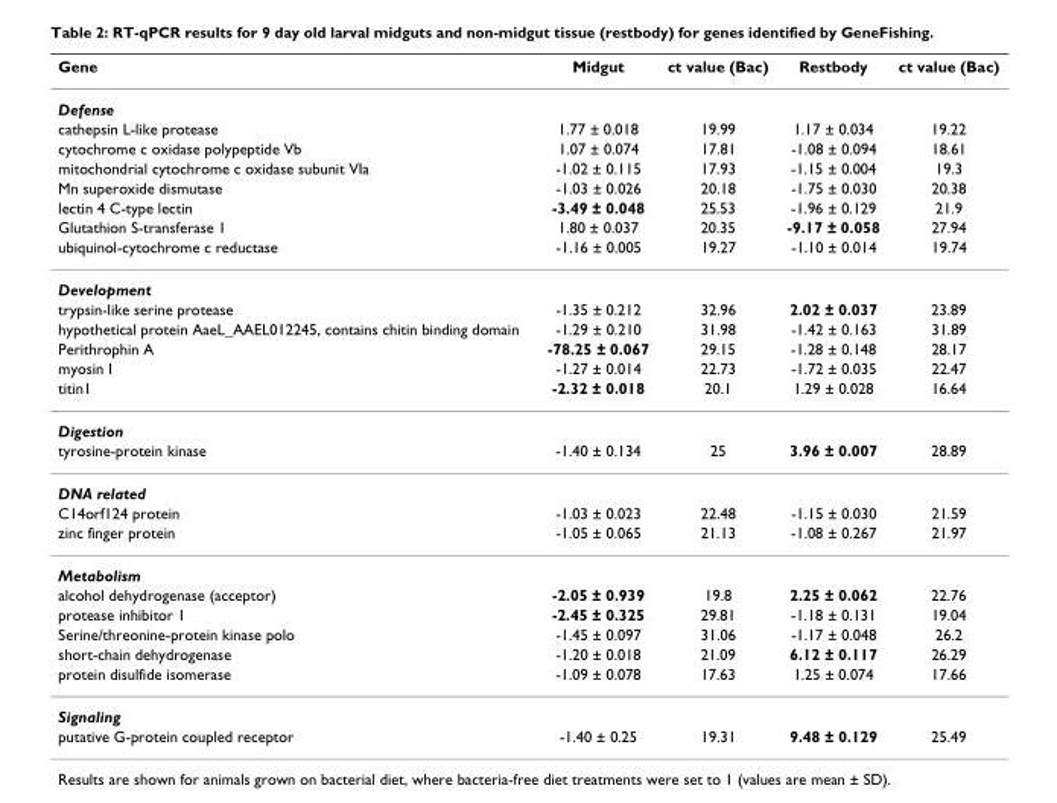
<table><thead><tr><td>Gene</td><td>Midgut</td><td>ct value (Bac)</td><td>Restbody</td><td>ct value (Bac)</td></tr></thead><tbody><tr><td colspan="5">Defense</td></tr><tr><td>cathepsin L-like protease</td><td>1.77 ± 0.018</td><td>19.99</td><td>1.17 ± 0.034</td><td>19.22</td></tr><tr><td>cytochrome c oxidase polypeptide Vb</td><td>1.07 ± 0.074</td><td>17.81</td><td>-1.08 ± 0.094</td><td>18.61</td></tr><tr><td>mitochondrial cytochrome c oxidase subunit VIa</td><td>-1.02 ± 0.115</td><td>17.93</td><td>-1.15 ± 0.004</td><td>19.3</td></tr><tr><td>Mn superoxide dismutase</td><td>-1.03 ± 0.026</td><td>20.18</td><td>-1.75 ± 0.030</td><td>20.38</td></tr><tr><td>lectin 4 C-type lectin</td><td>-3.49 ± 0.048</td><td>25.53</td><td>-1.96 ± 0.129</td><td>21.9</td></tr><tr><td>Glutathion S-transferase 1</td><td>1.80 ± 0.037</td><td>20.35</td><td>-9.17 ± 0.058</td><td>27.94</td></tr><tr><td>ubiquinol-cytochrome c reductase</td><td>-1.16 ± 0.005</td><td>19.27</td><td>-1.10 ± 0.014</td><td>19.74</td></tr><tr><td colspan="5">Development</td></tr><tr><td>trypsin-like serine protease</td><td>-1.35 ± 0.212</td><td>32.96</td><td>2.02 ± 0.037</td><td>23.89</td></tr><tr><td>hypothetical protein AaeL_AAEL012245, contains chitin binding domain</td><td>-1.29 ± 0.210</td><td>31.98</td><td>-1.42 ± 0.163</td><td>31.89</td></tr><tr><td>Perithrophin A</td><td>-78.25 ± 0.067</td><td>29.15</td><td>-1.28 ± 0.148</td><td>28.17</td></tr><tr><td>myosin I</td><td>-1.27 ± 0.014</td><td>22.73</td><td>-1.72 ± 0.035</td><td>22.47</td></tr><tr><td>titin1</td><td>-2.32 ± 0.018</td><td>20.1</td><td>1.29 ± 0.028</td><td>16.64</td></tr><tr><td colspan="5">Digestion</td></tr><tr><td>tyrosine-protein kinase</td><td>-1.40 ± 0.134</td><td>25</td><td>3.96 ± 0.007</td><td>28.89</td></tr><tr><td colspan="5">DNA related</td></tr><tr><td>C14orf124 protein</td><td>-1.03 ± 0.023</td><td>22.48</td><td>-1.15 ± 0.030</td><td>21.59</td></tr><tr><td>zinc finger protein</td><td>-1.05 ± 0.065</td><td>21.13</td><td>-1.08 ± 0.267</td><td>21.97</td></tr><tr><td colspan="5">Metabolism</td></tr><tr><td>alcohol dehydrogenase (acceptor)</td><td>-2.05 ± 0.939</td><td>19.8</td><td>2.25 ± 0.062</td><td>22.76</td></tr><tr><td>protease inhibitor 1</td><td>-2.45 ± 0.325</td><td>29.81</td><td>-1.18 ± 0.131</td><td>19.04</td></tr><tr><td>Serine/threonine-protein kinase polo</td><td>-1.45 ± 0.097</td><td>31.06</td><td>-1.17 ± 0.048</td><td>26.2</td></tr><tr><td>short-chain dehydrogenase</td><td>-1.20 ± 0.018</td><td>21.09</td><td>6.12 ± 0.117</td><td>26.29</td></tr><tr><td>protein disulfide isomerase</td><td>-1.09 ± 0.078</td><td>17.63</td><td>1.25 ± 0.074</td><td>17.66</td></tr><tr><td colspan="5">Signaling</td></tr><tr><td>putative G-protein coupled receptor</td><td>-1.40 ± 0.25</td><td>19.31</td><td>9.48 ± 0.129</td><td>25.49</td></tr></tbody></table>